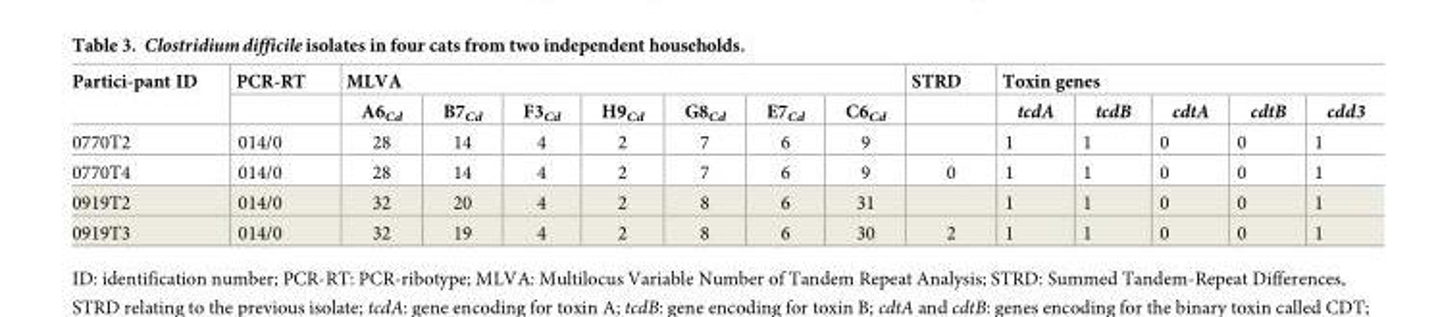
<table><thead><tr><td rowspan="2">Partici-pant ID</td><td rowspan="2">PCR-RT</td><td colspan="7">MLVA</td><td rowspan="2">STRD</td><td colspan="5">Toxin genes</td></tr><tr><td>A6<sub>Cd</sub></td><td>B7<sub>Cd</sub></td><td>F3<sub>Cd</sub></td><td>H9<sub>Cd</sub></td><td>G8<sub>Cd</sub></td><td>E7<sub>Cd</sub></td><td>C6<sub>Cd</sub></td><td>tcdA</td><td>tcdB</td><td>cdtA</td><td>cdtB</td><td>cdd3</td></tr></thead><tbody><tr><td>0770T2</td><td>014/0</td><td>28</td><td>14</td><td>4</td><td>2</td><td>7</td><td>6</td><td>9</td><td></td><td>1</td><td>1</td><td>0</td><td>0</td><td>1</td></tr><tr><td>0770T4</td><td>014/0</td><td>28</td><td>14</td><td>4</td><td>2</td><td>7</td><td>6</td><td>9</td><td>0</td><td>1</td><td>1</td><td>0</td><td>0</td><td>1</td></tr><tr><td>0919T2</td><td>014/0</td><td>32</td><td>20</td><td>4</td><td>2</td><td>8</td><td>6</td><td>31</td><td></td><td>1</td><td>1</td><td>0</td><td>0</td><td>1</td></tr><tr><td>0919T3</td><td>014/0</td><td>32</td><td>19</td><td>4</td><td>2</td><td>8</td><td>6</td><td>30</td><td>2</td><td>1</td><td>1</td><td>0</td><td>0</td><td>1</td></tr></tbody></table>